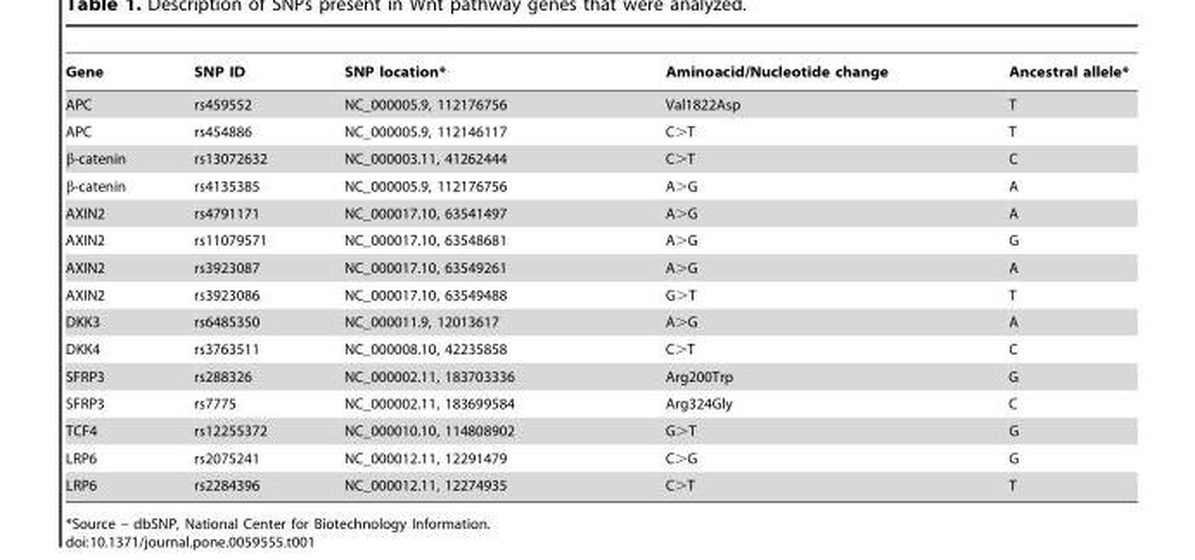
<table><thead><tr><td>Gene</td><td>SNP ID</td><td>SNP location*</td><td>Aminoacid/Nucleotide change</td><td>Ancestral allele*</td></tr></thead><tbody><tr><td>APC</td><td>rs459552</td><td>NC_000005.9, 112176756</td><td>Val1822Asp</td><td>T</td></tr><tr><td>APC</td><td>rs454886</td><td>NC_000005.9, 112146117</td><td>C&gt;T</td><td>T</td></tr><tr><td>β-catenin</td><td>rs13072632</td><td>NC_000003.11, 41262444</td><td>C&gt;T</td><td>C</td></tr><tr><td>β-catenin</td><td>rs4135385</td><td>NC_000005.9, 112176756</td><td>A&gt;G</td><td>A</td></tr><tr><td>AXIN2</td><td>rs4791171</td><td>NC_000017.10, 63541497</td><td>A&gt;G</td><td>A</td></tr><tr><td>AXIN2</td><td>rs11079571</td><td>NC_000017.10, 63548681</td><td>A&gt;G</td><td>G</td></tr><tr><td>AXIN2</td><td>rs3923087</td><td>NC_000017.10, 63549261</td><td>A&gt;G</td><td>A</td></tr><tr><td>AXIN2</td><td>rs3923086</td><td>NC_000017.10, 63549488</td><td>G&gt;T</td><td>T</td></tr><tr><td>DKK3</td><td>rs6485350</td><td>NC_000011.9, 12013617</td><td>A&gt;G</td><td>A</td></tr><tr><td>DKK4</td><td>rs3763511</td><td>NC_000008.10, 42235858</td><td>C&gt;T</td><td>C</td></tr><tr><td>SFRP3</td><td>rs288326</td><td>NC_000002.11, 183703336</td><td>Arg200Trp</td><td>G</td></tr><tr><td>SFRP3</td><td>rs7775</td><td>NC_000002.11, 183699584</td><td>Arg324Gly</td><td>C</td></tr><tr><td>TCF4</td><td>rs12255372</td><td>NC_000010.10, 114808902</td><td>G&gt;T</td><td>G</td></tr><tr><td>LRP6</td><td>rs2075241</td><td>NC_000012.11, 12291479</td><td>C&gt;G</td><td>G</td></tr><tr><td>LRP6</td><td>rs2284396</td><td>NC_000012.11, 12274935</td><td>C&gt;T</td><td>T</td></tr></tbody></table>